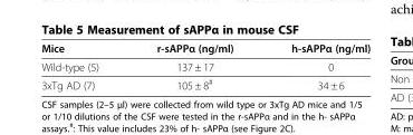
<table><thead><tr><td>Mice</td><td>r-sAPPα (ng/ml)</td><td>h-sAPPα (ng/ml)</td></tr></thead><tbody><tr><td>Wild-type (5)</td><td>137 ± 17</td><td>0</td></tr><tr><td>3xTg AD (7)</td><td>105 ± 8<sup>#</sup></td><td>34 ± 6</td></tr></tbody></table>